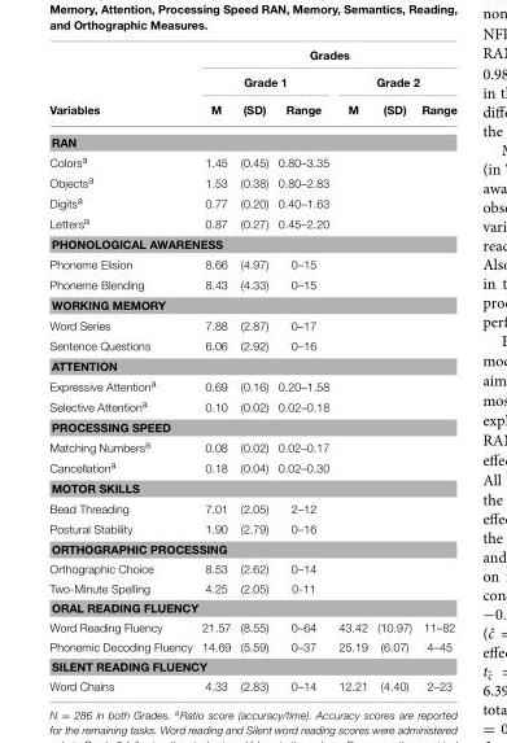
<table><thead><tr><td rowspan="3">Variables</td><td colspan="6">Grades</td></tr><tr><td colspan="3">Grade 1</td><td colspan="3">Grade 2</td></tr><tr><td>M</td><td>(SD)</td><td>Range</td><td>M</td><td>(SD)</td><td>Range</td></tr></thead><tbody><tr><td colspan="7">RAN</td></tr><tr><td>Colors<sup>a</sup></td><td>1.45</td><td>(0.45)</td><td>0.80–3.35</td><td></td><td></td><td></td></tr><tr><td>Objects<sup>a</sup></td><td>1.53</td><td>(0.38)</td><td>0.80–2.83</td><td></td><td></td><td></td></tr><tr><td>Digits<sup>a</sup></td><td>0.77</td><td>(0.20)</td><td>0.40–1.63</td><td></td><td></td><td></td></tr><tr><td>Letters<sup>a</sup></td><td>0.87</td><td>(0.27)</td><td>0.45–2.20</td><td></td><td></td><td></td></tr><tr><td colspan="7">PHONOLOGICAL AWARENESS</td></tr><tr><td>Phoneme Elision</td><td>8.66</td><td>(4.97)</td><td>0–15</td><td></td><td></td><td></td></tr><tr><td>Phoneme Blending</td><td>8.43</td><td>(4.33)</td><td>0–15</td><td></td><td></td><td></td></tr><tr><td colspan="7">WORKING MEMORY</td></tr><tr><td>Word Series</td><td>7.88</td><td>(2.87)</td><td>0–17</td><td></td><td></td><td></td></tr><tr><td>Sentence Questions</td><td>6.06</td><td>(2.92)</td><td>0–16</td><td></td><td></td><td></td></tr><tr><td colspan="7">ATTENTION</td></tr><tr><td>Expressive Attention<sup>a</sup></td><td>0.69</td><td>(0.16)</td><td>0.20–1.58</td><td></td><td></td><td></td></tr><tr><td>Selective Attention<sup>a</sup></td><td>0.10</td><td>(0.02)</td><td>0.02–0.18</td><td></td><td></td><td></td></tr><tr><td colspan="7">PROCESSING SPEED</td></tr><tr><td>Matching Numbers<sup>a</sup></td><td>0.08</td><td>(0.02)</td><td>0.02–0.17</td><td></td><td></td><td></td></tr><tr><td>Cancellation<sup>a</sup></td><td>0.18</td><td>(0.04)</td><td>0.02–0.30</td><td></td><td></td><td></td></tr><tr><td colspan="7">MOTOR SKILLS</td></tr><tr><td>Bead Threading</td><td>7.01</td><td>(2.05)</td><td>2–12</td><td></td><td></td><td></td></tr><tr><td>Postural Stability</td><td>1.90</td><td>(2.79)</td><td>0–16</td><td></td><td></td><td></td></tr><tr><td colspan="7">ORTHOGRAPHIC PROCESSING</td></tr><tr><td>Orthographic Choice</td><td>8.53</td><td>(2.62)</td><td>0–14</td><td></td><td></td><td></td></tr><tr><td>Two-Minute Spelling</td><td>4.25</td><td>(2.05)</td><td>0-11</td><td></td><td></td><td></td></tr><tr><td colspan="7">ORAL READING FLUENCY</td></tr><tr><td>Word Reading Fluency</td><td>21.57</td><td>(8.55)</td><td>0–64</td><td>43.42</td><td>(10.97)</td><td>11–82</td></tr><tr><td>Phonemic Decoding Fluency</td><td>14.69</td><td>(5.59)</td><td>0–37</td><td>25.19</td><td>(6.07)</td><td>4–45</td></tr><tr><td colspan="7">SILENT READING FLUENCY</td></tr><tr><td>Word Chains</td><td>4.33</td><td>(2.83)</td><td>0–14</td><td>12.21</td><td>(4.40)</td><td>2–23</td></tr></tbody></table>